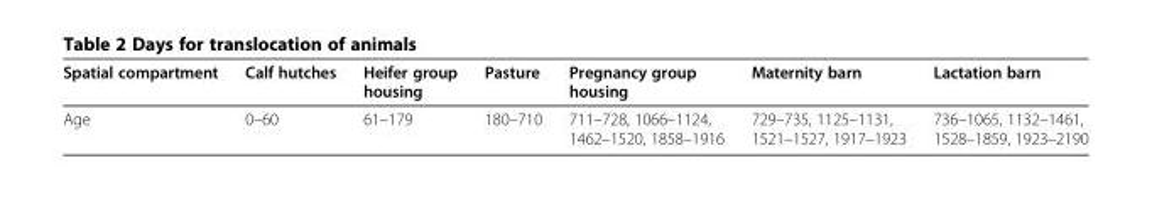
<table><thead><tr><td>Spatial compartment</td><td>Calf hutches</td><td>Heifer group housing</td><td>Pasture</td><td>Pregnancy group housing</td><td>Maternity barn</td><td>Lactation barn</td></tr></thead><tbody><tr><td>Age</td><td>0–60</td><td>61–179</td><td>180–710</td><td>711–728, 1066–1124, 1462–1520, 1858–1916</td><td>729–735, 1125–1131, 1521–1527, 1917–1923</td><td>736–1065, 1132–1461, 1528–1859, 1923–2190</td></tr></tbody></table>